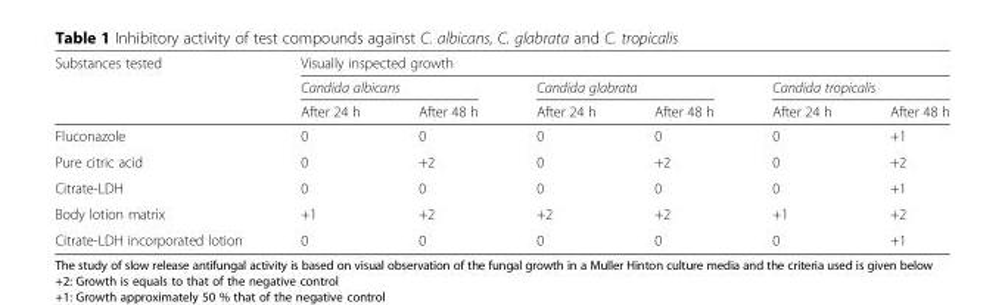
<table><thead><tr><td rowspan="3">Substances tested</td><td colspan="6">Visually inspected growth</td></tr><tr><td colspan="2">Candida albicans</td><td colspan="2">Candida glabrata</td><td colspan="2">Candida tropicalis</td></tr><tr><td>After 24 h</td><td>After 48 h</td><td>After 24 h</td><td>After 48 h</td><td>After 24 h</td><td>After 48 h</td></tr></thead><tbody><tr><td>Fluconazole</td><td>0</td><td>0</td><td>0</td><td>0</td><td>0</td><td>+1</td></tr><tr><td>Pure citric acid</td><td>0</td><td>+2</td><td>0</td><td>+2</td><td>0</td><td>+2</td></tr><tr><td>Citrate-LDH</td><td>0</td><td>0</td><td>0</td><td>0</td><td>0</td><td>+1</td></tr><tr><td>Body lotion matrix</td><td>+1</td><td>+2</td><td>+2</td><td>+2</td><td>+1</td><td>+2</td></tr><tr><td>Citrate-LDH incorporated lotion</td><td>0</td><td>0</td><td>0</td><td>0</td><td>0</td><td>+1</td></tr></tbody></table>